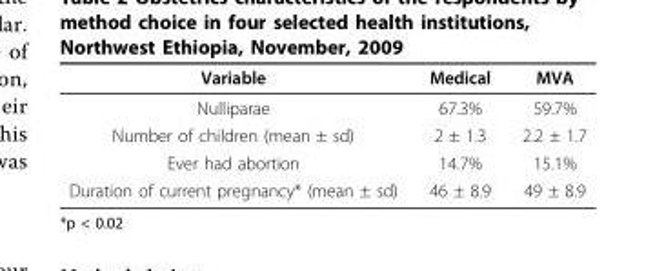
<table><thead><tr><td>Variable</td><td>Medical</td><td>MVA</td></tr></thead><tbody><tr><td>Nulliparae</td><td>67.3%</td><td>59.7%</td></tr><tr><td>Number of children (mean ± sd)</td><td>2 ± 1.3</td><td>2.2 ± 1.7</td></tr><tr><td>Ever had abortion</td><td>14.7%</td><td>15.1%</td></tr><tr><td>Duration of current pregnancy* (mean ± sd)</td><td>46 ± 8.9</td><td>49 ± 8.9</td></tr></tbody></table>